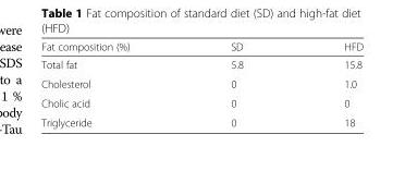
<table><thead><tr><td>Fat composition (%)</td><td>SD</td><td>HFD</td></tr></thead><tbody><tr><td>Total fat</td><td>5.8</td><td>15.8</td></tr><tr><td>Cholesterol</td><td>0</td><td>1.0</td></tr><tr><td>Cholic acid</td><td>0</td><td>0</td></tr><tr><td>Triglyceride</td><td>0</td><td>18</td></tr></tbody></table>